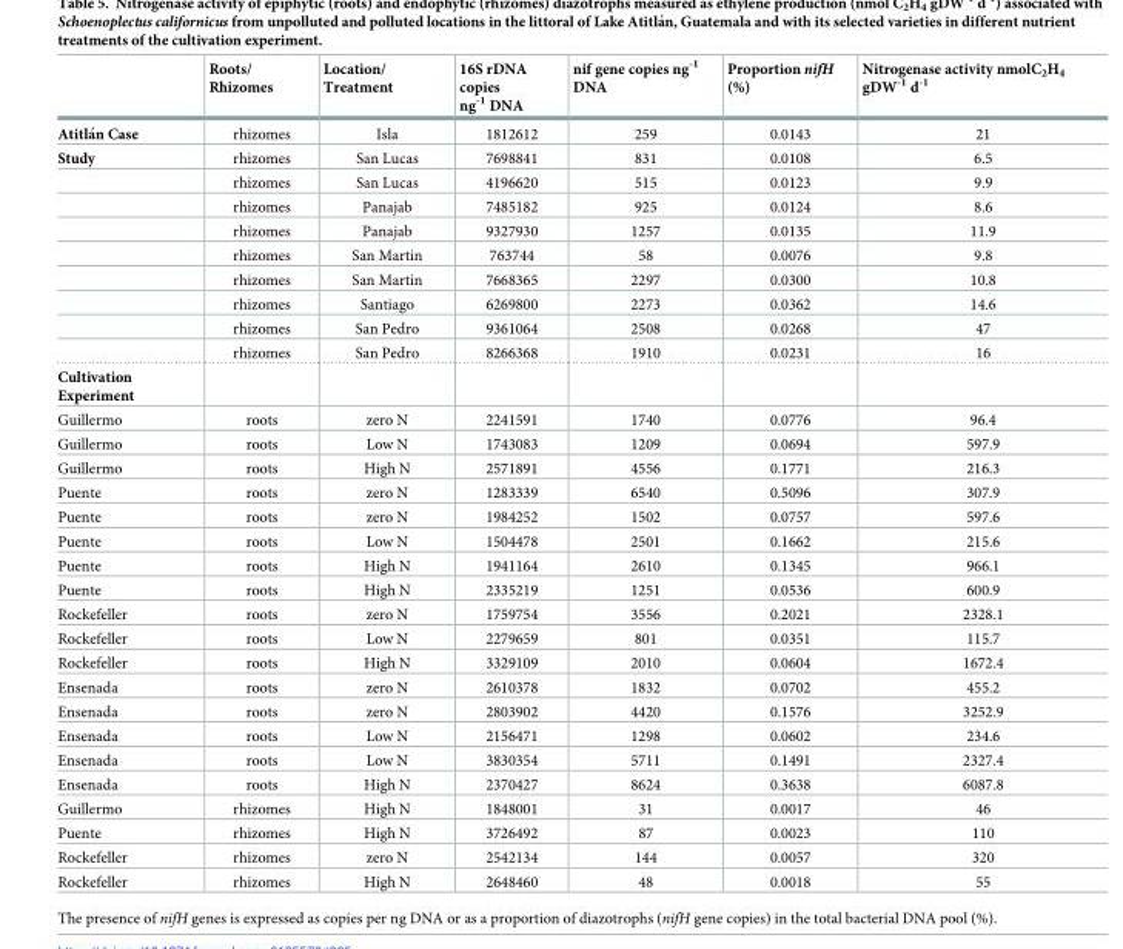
<table><thead><tr><td></td><td>Roots/ Rhizomes</td><td>Location/ Treatment</td><td>16S rDNA copies ng<sup>-1</sup> DNA</td><td>nif gene copies ng<sup>-1</sup> DNA</td><td>Proportion nifH (%)</td><td>Nitrogenase activity nmolC<sub>2</sub>H<sub>4</sub> gDW<sup>-1</sup> d<sup>-1</sup></td></tr></thead><tbody><tr><td>Atitla´n Case</td><td>rhizomes</td><td>Isla</td><td>1812612</td><td>259</td><td>0.0143</td><td>21</td></tr><tr><td rowspan="9">Study</td><td>rhizomes</td><td>San Lucas</td><td>7698841</td><td>831</td><td>0.0108</td><td>6.5</td></tr><tr><td>rhizomes</td><td>San Lucas</td><td>4196620</td><td>515</td><td>0.0123</td><td>9.9</td></tr><tr><td>rhizomes</td><td>Panajab</td><td>7485182</td><td>925</td><td>0.0124</td><td>8.6</td></tr><tr><td>rhizomes</td><td>Panajab</td><td>9327930</td><td>1257</td><td>0.0135</td><td>11.9</td></tr><tr><td>rhizomes</td><td>San Martin</td><td>763744</td><td>58</td><td>0.0076</td><td>9.8</td></tr><tr><td>rhizomes</td><td>San Martin</td><td>7668365</td><td>2297</td><td>0.0300</td><td>10.8</td></tr><tr><td>rhizomes</td><td>Santiago</td><td>6269800</td><td>2273</td><td>0.0362</td><td>14.6</td></tr><tr><td>rhizomes</td><td>San Pedro</td><td>9361064</td><td>2508</td><td>0.0268</td><td>47</td></tr><tr><td>rhizomes</td><td>San Pedro</td><td>8266368</td><td>1910</td><td>0.0231</td><td>16</td></tr><tr><td colspan="7">Cultivation Experiment</td></tr><tr><td>Guillermo</td><td>roots</td><td>zero N</td><td>2241591</td><td>1740</td><td>0.0776</td><td>96.4</td></tr><tr><td>Guillermo</td><td>roots</td><td>Low N</td><td>1743083</td><td>1209</td><td>0.0694</td><td>597.9</td></tr><tr><td>Guillermo</td><td>roots</td><td>High N</td><td>2571891</td><td>4556</td><td>0.1771</td><td>216.3</td></tr><tr><td>Puente</td><td>roots</td><td>zero N</td><td>1283339</td><td>6540</td><td>0.5096</td><td>307.9</td></tr><tr><td>Puente</td><td>roots</td><td>zero N</td><td>1984252</td><td>1502</td><td>0.0757</td><td>597.6</td></tr><tr><td>Puente</td><td>roots</td><td>Low N</td><td>1504478</td><td>2501</td><td>0.1662</td><td>215.6</td></tr><tr><td>Puente</td><td>roots</td><td>High N</td><td>1941164</td><td>2610</td><td>0.1345</td><td>966.1</td></tr><tr><td>Puente</td><td>roots</td><td>High N</td><td>2335219</td><td>1251</td><td>0.0536</td><td>600.9</td></tr><tr><td>Rockefeller</td><td>roots</td><td>zero N</td><td>1759754</td><td>3556</td><td>0.2021</td><td>2328.1</td></tr><tr><td>Rockefeller</td><td>roots</td><td>Low N</td><td>2279659</td><td>801</td><td>0.0351</td><td>115.7</td></tr><tr><td>Rockefeller</td><td>roots</td><td>High N</td><td>3329109</td><td>2010</td><td>0.0604</td><td>1672.4</td></tr><tr><td>Ensenada</td><td>roots</td><td>zero N</td><td>2610378</td><td>1832</td><td>0.0702</td><td>455.2</td></tr><tr><td>Ensenada</td><td>roots</td><td>zero N</td><td>2803902</td><td>4420</td><td>0.1576</td><td>3252.9</td></tr><tr><td>Ensenada</td><td>roots</td><td>Low N</td><td>2156471</td><td>1298</td><td>0.0602</td><td>234.6</td></tr><tr><td>Ensenada</td><td>roots</td><td>Low N</td><td>3830354</td><td>5711</td><td>0.1491</td><td>2327.4</td></tr><tr><td>Ensenada</td><td>roots</td><td>High N</td><td>2370427</td><td>8624</td><td>0.3638</td><td>6087.8</td></tr><tr><td>Guillermo</td><td>rhizomes</td><td>High N</td><td>1848001</td><td>31</td><td>0.0017</td><td>46</td></tr><tr><td>Puente</td><td>rhizomes</td><td>High N</td><td>3726492</td><td>87</td><td>0.0023</td><td>110</td></tr><tr><td>Rockefeller</td><td>rhizomes</td><td>zero N</td><td>2542134</td><td>144</td><td>0.0057</td><td>320</td></tr><tr><td>Rockefeller</td><td>rhizomes</td><td>High N</td><td>2648460</td><td>48</td><td>0.0018</td><td>55</td></tr></tbody></table>